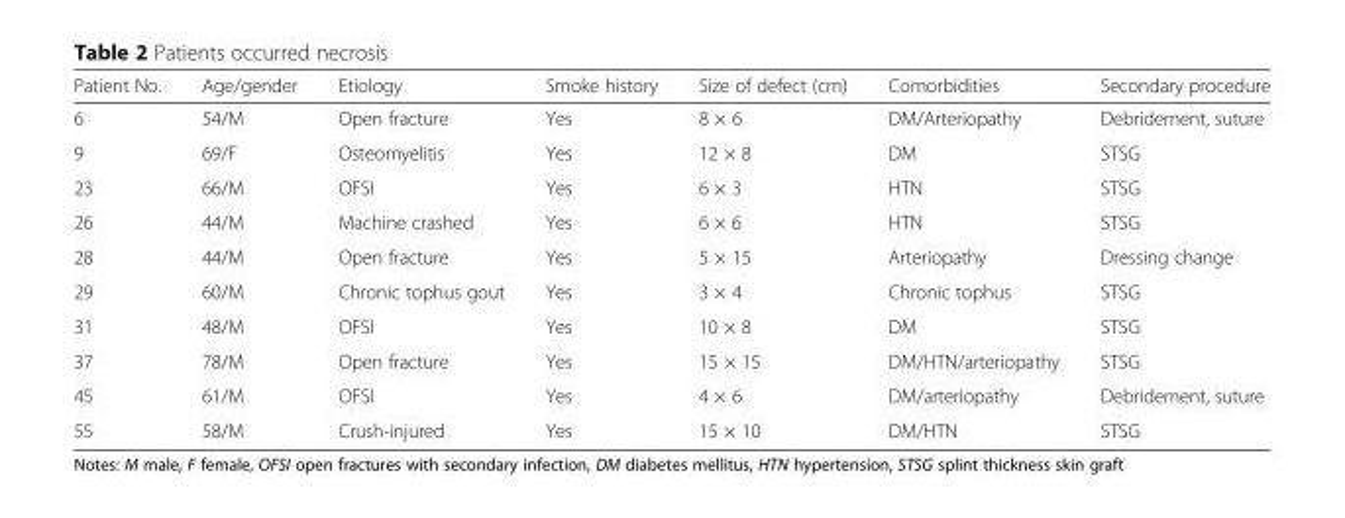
<table><thead><tr><td>Patient No.</td><td>Age/gender</td><td>Etiology</td><td>Smoke history</td><td>Size of defect (cm)</td><td>Comorbidities</td><td>Secondary procedure</td></tr></thead><tbody><tr><td>6</td><td>54/M</td><td>Open fracture</td><td>Yes</td><td>8 × 6</td><td>DM/Arteriopathy</td><td>Debridement, suture</td></tr><tr><td>9</td><td>69/F</td><td>Osteomyelitis</td><td>Yes</td><td>12 × 8</td><td>DM</td><td>STSG</td></tr><tr><td>23</td><td>66/M</td><td>OFSI</td><td>Yes</td><td>6 × 3</td><td>HTN</td><td>STSG</td></tr><tr><td>26</td><td>44/M</td><td>Machine crashed</td><td>Yes</td><td>6 × 6</td><td>HTN</td><td>STSG</td></tr><tr><td>28</td><td>44/M</td><td>Open fracture</td><td>Yes</td><td>5 × 15</td><td>Arteriopathy</td><td>Dressing change</td></tr><tr><td>29</td><td>60/M</td><td>Chronic tophus gout</td><td>Yes</td><td>3 × 4</td><td>Chronic tophus</td><td>STSG</td></tr><tr><td>31</td><td>48/M</td><td>OFSI</td><td>Yes</td><td>10 × 8</td><td>DM</td><td>STSG</td></tr><tr><td>37</td><td>78/M</td><td>Open fracture</td><td>Yes</td><td>15 × 15</td><td>DM/HTN/arteriopathy</td><td>STSG</td></tr><tr><td>45</td><td>61/M</td><td>OFSI</td><td>Yes</td><td>4 × 6</td><td>DM/arteriopathy</td><td>Debridement, suture</td></tr><tr><td>55</td><td>58/M</td><td>Crush-injured</td><td>Yes</td><td>15 × 10</td><td>DM/HTN</td><td>STSG</td></tr></tbody></table>